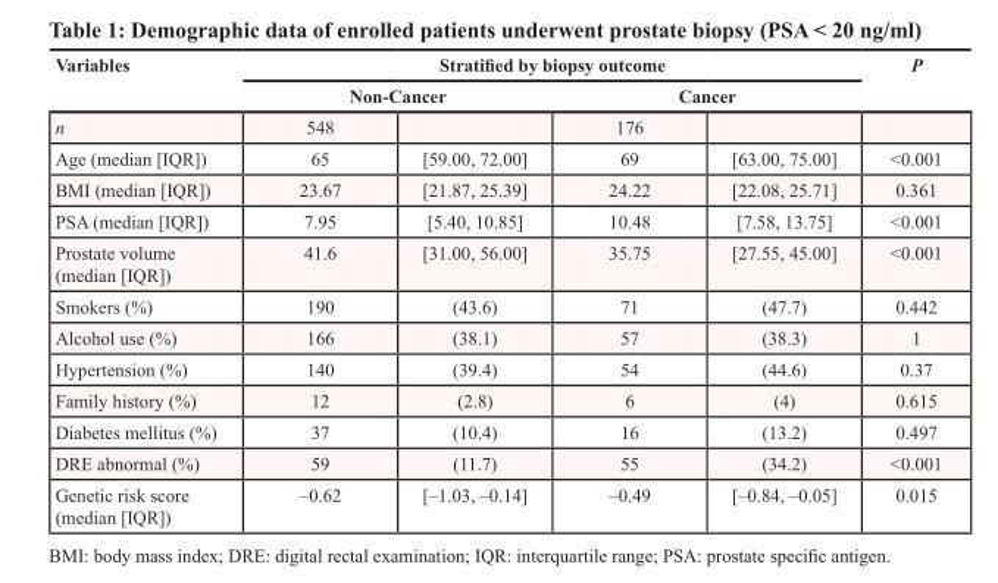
<table><thead><tr><td rowspan="3">Variables n</td><td colspan="4">Stratified by biopsy outcome</td><td rowspan="3">P</td></tr><tr><td colspan="2">Non-Cancer</td><td colspan="2">Cancer</td></tr><tr><td>548</td><td></td><td>176</td><td></td></tr></thead><tbody><tr><td>Age (median [IQR])</td><td>65</td><td>[59.00, 72.00]</td><td>69</td><td>[63.00, 75.00]</td><td>&lt;0.001</td></tr><tr><td>BMI (median [IQR])</td><td>23.67</td><td>[21.87, 25.39]</td><td>24.22</td><td>[22.08, 25.71]</td><td>0.361</td></tr><tr><td>PSA (median [IQR])</td><td>7.95</td><td>[5.40, 10.85]</td><td>10.48</td><td>[7.58, 13.75]</td><td>&lt;0.001</td></tr><tr><td>Prostate volume (median [IQR])</td><td>41.6</td><td>[31.00, 56.00]</td><td>35.75</td><td>[27.55, 45.00]</td><td>&lt;0.001</td></tr><tr><td>Smokers (%)</td><td>190</td><td>(43.6)</td><td>71</td><td>(47.7)</td><td>0.442</td></tr><tr><td>Alcohol use (%)</td><td>166</td><td>(38.1)</td><td>57</td><td>(38.3)</td><td>1</td></tr><tr><td>Hypertension (%)</td><td>140</td><td>(39.4)</td><td>54</td><td>(44.6)</td><td>0.37</td></tr><tr><td>Family history (%)</td><td>12</td><td>(2.8)</td><td>6</td><td>(4)</td><td>0.615</td></tr><tr><td>Diabetes mellitus (%)</td><td>37</td><td>(10.4)</td><td>16</td><td>(13.2)</td><td>0.497</td></tr><tr><td>DRE abnormal (%)</td><td>59</td><td>(11.7)</td><td>55</td><td>(34.2)</td><td>&lt;0.001</td></tr><tr><td>Genetic risk score (median [IQR])</td><td>–0.62</td><td>[–1.03, –0.14]</td><td>–0.49</td><td>[–0.84, –0.05]</td><td>0.015</td></tr></tbody></table>